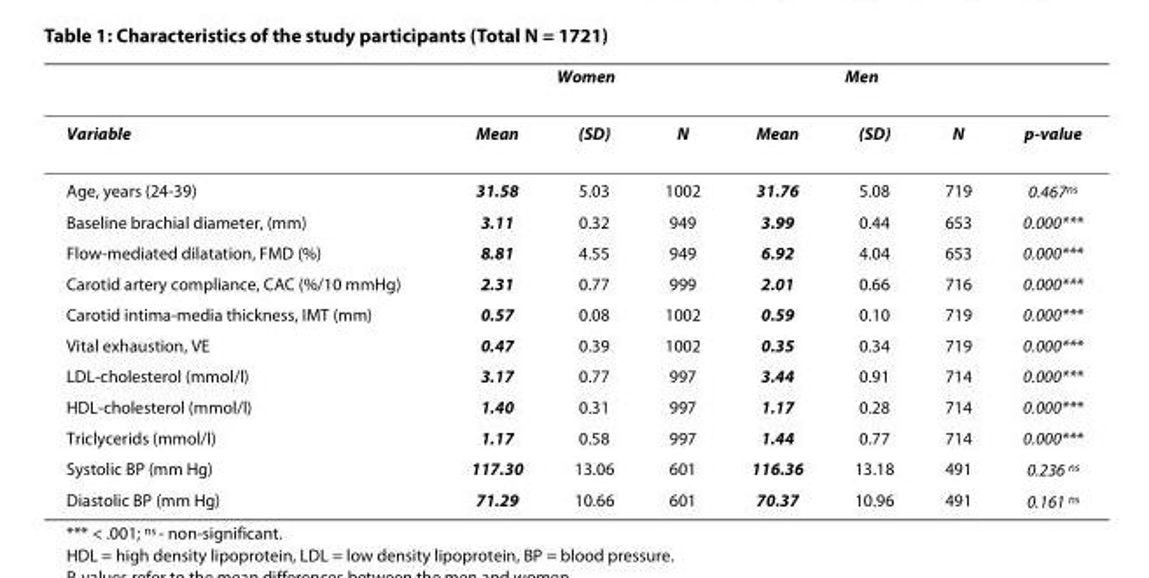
<table><thead><tr><td rowspan="2">Variable</td><td colspan="3">Women</td><td colspan="3">Men</td><td rowspan="2">p-value</td></tr><tr><td>Mean</td><td>(SD)</td><td>N</td><td>Mean</td><td>(SD)</td><td>N</td></tr></thead><tbody><tr><td>Age, years (24-39)</td><td>31.58</td><td>5.03</td><td>1002</td><td>31.76</td><td>5.08</td><td>719</td><td>0.467<sup>ns</sup></td></tr><tr><td>Baseline brachial diameter, (mm)</td><td>3.11</td><td>0.32</td><td>949</td><td>3.99</td><td>0.44</td><td>653</td><td>0.000***</td></tr><tr><td>Flow-mediated dilatation, FMD (%)</td><td>8.81</td><td>4.55</td><td>949</td><td>6.92</td><td>4.04</td><td>653</td><td>0.000***</td></tr><tr><td>Carotid artery compliance, CAC (%/10 mmHg)</td><td>2.31</td><td>0.77</td><td>999</td><td>2.01</td><td>0.66</td><td>716</td><td>0.000***</td></tr><tr><td>Carotid intima-media thickness, IMT (mm)</td><td>0.57</td><td>0.08</td><td>1002</td><td>0.59</td><td>0.10</td><td>719</td><td>0.000***</td></tr><tr><td>Vital exhaustion, VE</td><td>0.47</td><td>0.39</td><td>1002</td><td>0.35</td><td>0.34</td><td>719</td><td>0.000***</td></tr><tr><td>LDL-cholesterol (mmol/l)</td><td>3.17</td><td>0.77</td><td>997</td><td>3.44</td><td>0.91</td><td>714</td><td>0.000***</td></tr><tr><td>HDL-cholesterol (mmol/l)</td><td>1.40</td><td>0.31</td><td>997</td><td>1.17</td><td>0.28</td><td>714</td><td>0.000***</td></tr><tr><td>Triclycerids (mmol/l)</td><td>1.17</td><td>0.58</td><td>997</td><td>1.44</td><td>0.77</td><td>714</td><td>0.000***</td></tr><tr><td>Systolic BP (mm Hg)</td><td>117.30</td><td>13.06</td><td>601</td><td>116.36</td><td>13.18</td><td>491</td><td>0.236 <sup>ns</sup></td></tr><tr><td>Diastolic BP (mm Hg)</td><td>71.29</td><td>10.66</td><td>601</td><td>70.37</td><td>10.96</td><td>491</td><td>0.161 <sup>ns</sup></td></tr></tbody></table>